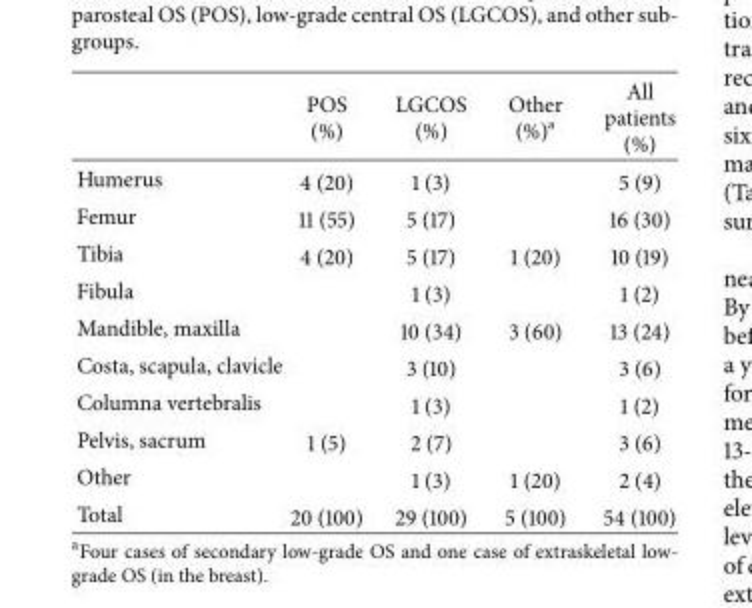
<table><thead><tr><td></td><td>POS (%)</td><td>LGCOS (%)</td><td>Other (%)<sup>a</sup></td><td>All patients (%)</td></tr></thead><tbody><tr><td>Humerus</td><td>4 (20)</td><td>1 (3)</td><td></td><td>5 (9)</td></tr><tr><td>Femur</td><td>11 (55)</td><td>5 (17)</td><td></td><td>16 (30)</td></tr><tr><td>Tibia</td><td>4 (20)</td><td>5 (17)</td><td>1 (20)</td><td>10 (19)</td></tr><tr><td>Fibula</td><td></td><td>1 (3)</td><td></td><td>1 (2)</td></tr><tr><td>Mandible, maxilla</td><td></td><td>10 (34)</td><td>3 (60)</td><td>13 (24)</td></tr><tr><td>Costa, scapula, clavicle</td><td></td><td>3 (10)</td><td></td><td>3 (6)</td></tr><tr><td>Columna vertebralis</td><td></td><td>1 (3)</td><td></td><td>1 (2)</td></tr><tr><td>Pelvis, sacrum</td><td>1 (5)</td><td>2 (7)</td><td></td><td>3 (6)</td></tr><tr><td>Other</td><td></td><td>1 (3)</td><td>1 (20)</td><td>2 (4)</td></tr><tr><td>Total</td><td>20 (100)</td><td>29 (100)</td><td>5 (100)</td><td>54 (100)</td></tr></tbody></table>